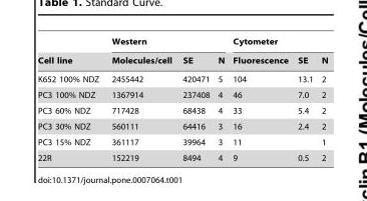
<table><thead><tr><td rowspan="2">Cell line</td><td colspan="3">Western</td><td colspan="3">Cytometer</td></tr><tr><td>Molecules/cell</td><td>SE</td><td>N</td><td>Fluorescence</td><td>SE</td><td>N</td></tr></thead><tbody><tr><td>K652 100% NDZ</td><td>2455442</td><td>420471</td><td>5</td><td>104</td><td>13.1</td><td>2</td></tr><tr><td>PC3 100% NDZ</td><td>1367914</td><td>237408</td><td>4</td><td>46</td><td>7.0</td><td>2</td></tr><tr><td>PC3 60% NDZ</td><td>717428</td><td>68438</td><td>4</td><td>33</td><td>5.4</td><td>2</td></tr><tr><td>PC3 30% NDZ</td><td>560111</td><td>64416</td><td>3</td><td>16</td><td>2.4</td><td>2</td></tr><tr><td>PC3 15% NDZ</td><td>361117</td><td>39964</td><td>3</td><td>11</td><td></td><td>1</td></tr><tr><td>22R</td><td>152219</td><td>8494</td><td>4</td><td>9</td><td>0.5</td><td>2</td></tr></tbody></table>